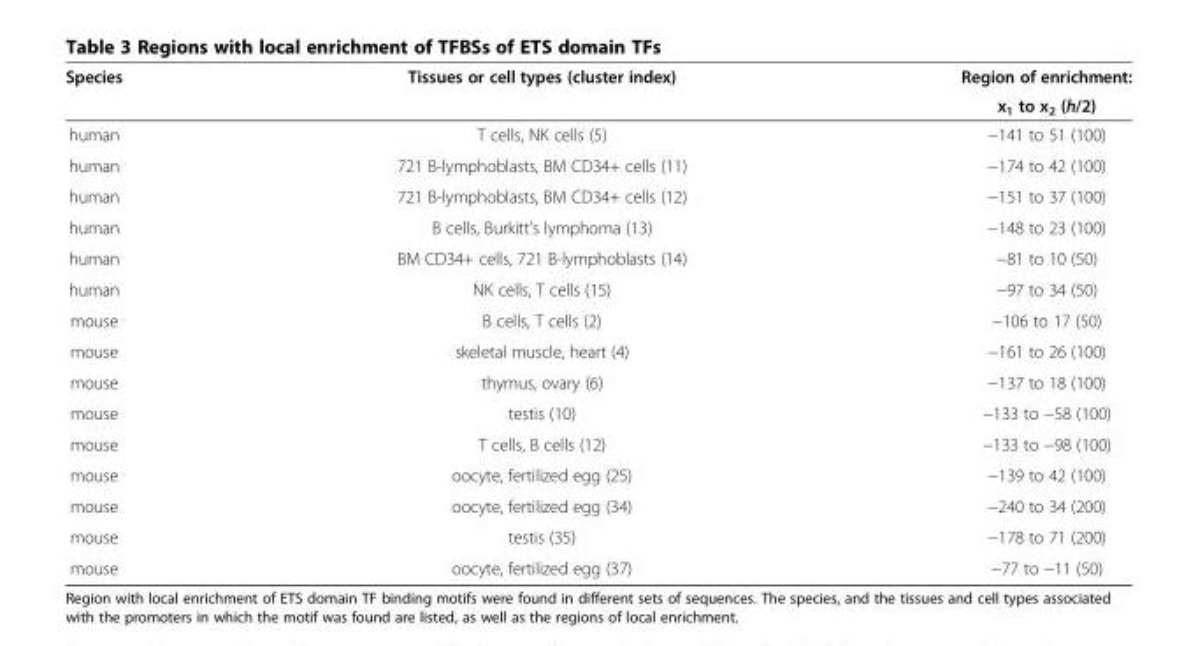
<table><thead><tr><td rowspan="2">Species</td><td rowspan="2">Tissues or cell types (cluster index)</td><td rowspan="2">Region of enrichment: x<sub>1</sub> to x<sub>2</sub> (h/2)</td></tr><tr></tr></thead><tbody><tr><td>human</td><td>T cells, NK cells (5)</td><td>−141 to 51 (100)</td></tr><tr><td>human</td><td>721 B-lymphoblasts, BM CD34+ cells (11)</td><td>−174 to 42 (100)</td></tr><tr><td>human</td><td>721 B-lymphoblasts, BM CD34+ cells (12)</td><td>−151 to 37 (100)</td></tr><tr><td>human</td><td>B cells, Burkitt&#x27;s lymphoma (13)</td><td>−148 to 23 (100)</td></tr><tr><td>human</td><td>BM CD34+ cells, 721 B-lymphoblasts (14)</td><td>−81 to 10 (50)</td></tr><tr><td>human</td><td>NK cells, T cells (15)</td><td>−97 to 34 (50)</td></tr><tr><td>mouse</td><td>B cells, T cells (2)</td><td>−106 to 17 (50)</td></tr><tr><td>mouse</td><td>skeletal muscle, heart (4)</td><td>−161 to 26 (100)</td></tr><tr><td>mouse</td><td>thymus, ovary (6)</td><td>−137 to 18 (100)</td></tr><tr><td>mouse</td><td>testis (10)</td><td>−133 to −58 (100)</td></tr><tr><td>mouse</td><td>T cells, B cells (12)</td><td>−133 to −98 (100)</td></tr><tr><td>mouse</td><td>oocyte, fertilized egg (25)</td><td>−139 to 42 (100)</td></tr><tr><td>mouse</td><td>oocyte, fertilized egg (34)</td><td>−240 to 34 (200)</td></tr><tr><td>mouse</td><td>testis (35)</td><td>−178 to 71 (200)</td></tr><tr><td>mouse</td><td>oocyte, fertilized egg (37)</td><td>−77 to −11 (50)</td></tr></tbody></table>